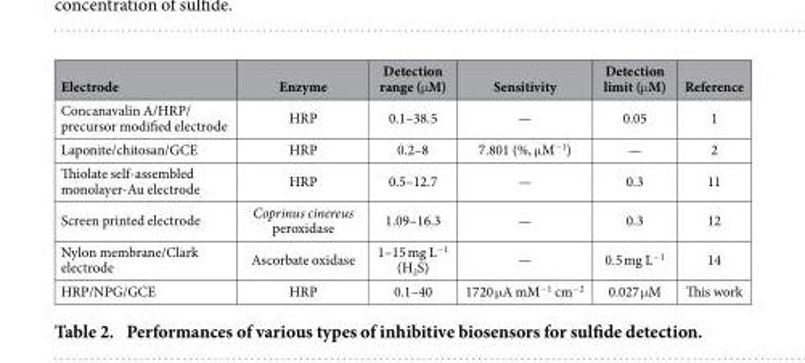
<table><thead><tr><td>Electrode</td><td>Enzyme</td><td>Detection range (μ M)</td><td>Sensitivity</td><td>Detection limit (μ M)</td><td>Reference</td></tr></thead><tbody><tr><td>Concanavalin A/HRP/ precursor modified electrode</td><td>HRP</td><td>0.1–38.5</td><td>—</td><td>0.05</td><td>1</td></tr><tr><td>Laponite/chitosan/GCE</td><td>HRP</td><td>0.2–8</td><td>7.801 (%, μ M<sup>−1</sup>)</td><td>—</td><td>2</td></tr><tr><td>Thiolate self-assembled monolayer-Au electrode</td><td>HRP</td><td>0.5–12.7</td><td>—</td><td>0.3</td><td>11</td></tr><tr><td>Screen printed electrode</td><td>Coprinus cinereus peroxidase</td><td>1.09–16.3</td><td>—</td><td>0.3</td><td>12</td></tr><tr><td>Nylon membrane/Clark electrode</td><td>Ascorbate oxidase</td><td>1–15 mg L<sup>−1</sup> (H<sub>2</sub>S)</td><td>—</td><td>0.5 mg L<sup>−1</sup></td><td>14</td></tr><tr><td>HRP/NPG/GCE</td><td>HRP</td><td>0.1–40</td><td>1720 μ A mM<sup>−1</sup> cm<sup>−2</sup></td><td>0.027 μ M</td><td>This work</td></tr></tbody></table>